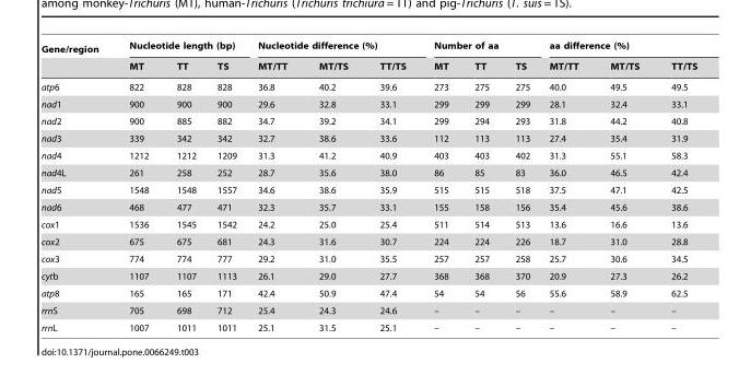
<table><thead><tr><td rowspan="2">Gene/region</td><td colspan="3">Nucleotide length (bp)</td><td colspan="3">Nucleotide difference (%)</td><td colspan="3">Number of aa</td><td colspan="3">aa difference (%)</td></tr><tr><td>MT</td><td>TT</td><td>TS</td><td>MT/TT</td><td>MT/TS</td><td>TT/TS</td><td>MT</td><td>TT</td><td>TS</td><td>MT/TT</td><td>MT/TS</td><td>TT/TS</td></tr></thead><tbody><tr><td>atp6</td><td>822</td><td>828</td><td>828</td><td>36.8</td><td>40.2</td><td>39.6</td><td>273</td><td>275</td><td>275</td><td>40.0</td><td>49.5</td><td>49.5</td></tr><tr><td>nad1</td><td>900</td><td>900</td><td>900</td><td>29.6</td><td>32.8</td><td>33.1</td><td>299</td><td>299</td><td>299</td><td>28.1</td><td>32.4</td><td>33.1</td></tr><tr><td>nad2</td><td>900</td><td>885</td><td>882</td><td>34.7</td><td>39.2</td><td>34.1</td><td>299</td><td>294</td><td>293</td><td>31.8</td><td>44.2</td><td>40.8</td></tr><tr><td>nad3</td><td>339</td><td>342</td><td>342</td><td>32.7</td><td>38.6</td><td>33.6</td><td>112</td><td>113</td><td>113</td><td>27.4</td><td>35.4</td><td>31.9</td></tr><tr><td>nad4</td><td>1212</td><td>1212</td><td>1209</td><td>31.3</td><td>41.2</td><td>40.9</td><td>403</td><td>403</td><td>402</td><td>31.3</td><td>55.1</td><td>58.3</td></tr><tr><td>nad4L</td><td>261</td><td>258</td><td>252</td><td>28.7</td><td>35.6</td><td>38.0</td><td>86</td><td>85</td><td>83</td><td>36.0</td><td>46.5</td><td>42.4</td></tr><tr><td>nad5</td><td>1548</td><td>1548</td><td>1557</td><td>34.6</td><td>38.6</td><td>35.9</td><td>515</td><td>515</td><td>518</td><td>37.5</td><td>47.1</td><td>42.5</td></tr><tr><td>nad6</td><td>468</td><td>477</td><td>471</td><td>32.3</td><td>35.7</td><td>33.1</td><td>155</td><td>158</td><td>156</td><td>35.4</td><td>45.6</td><td>38.6</td></tr><tr><td>cox1</td><td>1536</td><td>1545</td><td>1542</td><td>24.2</td><td>25.0</td><td>25.4</td><td>511</td><td>514</td><td>513</td><td>13.6</td><td>16.6</td><td>13.6</td></tr><tr><td>cox2</td><td>675</td><td>675</td><td>681</td><td>24.3</td><td>31.6</td><td>30.7</td><td>224</td><td>224</td><td>226</td><td>18.7</td><td>31.0</td><td>28.8</td></tr><tr><td>cox3</td><td>774</td><td>774</td><td>777</td><td>29.2</td><td>31.0</td><td>35.5</td><td>257</td><td>257</td><td>258</td><td>25.7</td><td>30.6</td><td>34.5</td></tr><tr><td>cytb</td><td>1107</td><td>1107</td><td>1113</td><td>26.1</td><td>29.0</td><td>27.7</td><td>368</td><td>368</td><td>370</td><td>20.9</td><td>27.3</td><td>26.2</td></tr><tr><td>atp8</td><td>165</td><td>165</td><td>171</td><td>42.4</td><td>50.9</td><td>47.4</td><td>54</td><td>54</td><td>56</td><td>55.6</td><td>58.9</td><td>62.5</td></tr><tr><td>rrnS</td><td>705</td><td>698</td><td>712</td><td>25.4</td><td>24.3</td><td>24.6</td><td>–</td><td>–</td><td>–</td><td>–</td><td>–</td><td>–</td></tr><tr><td>rrnL</td><td>1007</td><td>1011</td><td>1011</td><td>25.1</td><td>31.5</td><td>25.1</td><td>–</td><td>–</td><td>–</td><td>–</td><td>–</td><td>–</td></tr></tbody></table>